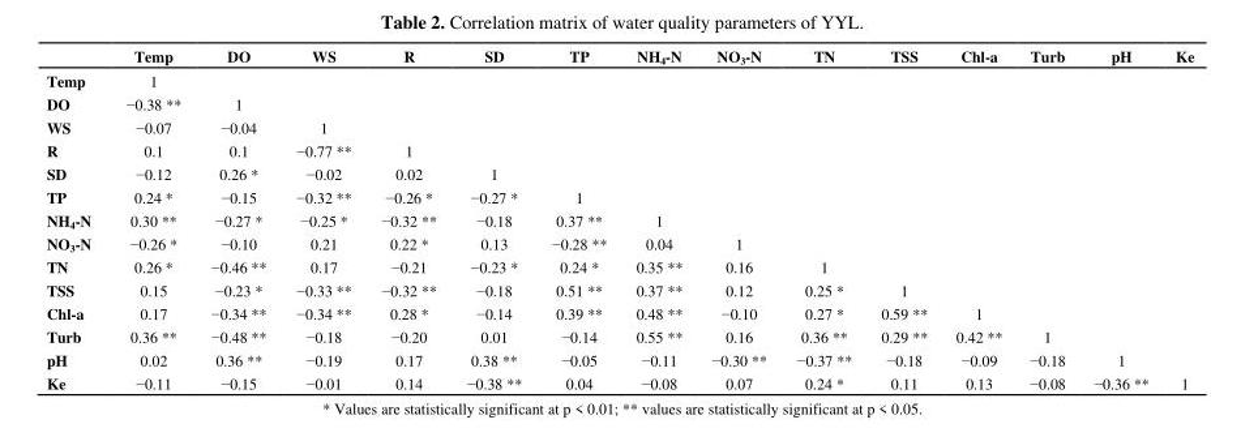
<table><thead><tr><td></td><td>Temp</td><td>DO</td><td>WS</td><td>R</td><td>SD</td><td>TP</td><td>NH<sub>4</sub>-N</td><td>NO<sub>3</sub>-N</td><td>TN</td><td>TSS</td><td>Chl-a</td><td>Turb</td><td>pH</td><td>Ke</td></tr></thead><tbody><tr><td>Temp</td><td>1</td><td></td><td></td><td></td><td></td><td></td><td></td><td></td><td></td><td></td><td></td><td></td><td></td><td></td></tr><tr><td>DO</td><td>−0.38 **</td><td>1</td><td></td><td></td><td></td><td></td><td></td><td></td><td></td><td></td><td></td><td></td><td></td><td></td></tr><tr><td>WS</td><td>−0.07</td><td>−0.04</td><td>1</td><td></td><td></td><td></td><td></td><td></td><td></td><td></td><td></td><td></td><td></td><td></td></tr><tr><td>R</td><td>0.1</td><td>0.1</td><td>−0.77 **</td><td>1</td><td></td><td></td><td></td><td></td><td></td><td></td><td></td><td></td><td></td><td></td></tr><tr><td>SD</td><td>−0.12</td><td>0.26 *</td><td>−0.02</td><td>0.02</td><td>1</td><td></td><td></td><td></td><td></td><td></td><td></td><td></td><td></td><td></td></tr><tr><td>TP</td><td>0.24 *</td><td>−0.15</td><td>−0.32 **</td><td>−0.26 *</td><td>−0.27 *</td><td>1</td><td></td><td></td><td></td><td></td><td></td><td></td><td></td><td></td></tr><tr><td>NH<sub>4</sub>-N</td><td>0.30 **</td><td>−0.27 *</td><td>−0.25 *</td><td>−0.32 **</td><td>−0.18</td><td>0.37 **</td><td>1</td><td></td><td></td><td></td><td></td><td></td><td></td><td></td></tr><tr><td>NO<sub>3</sub>-N</td><td>−0.26 *</td><td>−0.10</td><td>0.21</td><td>0.22 *</td><td>0.13</td><td>−0.28 **</td><td>0.04</td><td>1</td><td></td><td></td><td></td><td></td><td></td><td></td></tr><tr><td>TN</td><td>0.26 *</td><td>−0.46 **</td><td>0.17</td><td>−0.21</td><td>−0.23 *</td><td>0.24 *</td><td>0.35 **</td><td>0.16</td><td>1</td><td></td><td></td><td></td><td></td><td></td></tr><tr><td>TSS</td><td>0.15</td><td>−0.23 *</td><td>−0.33 **</td><td>−0.32 **</td><td>−0.18</td><td>0.51 **</td><td>0.37 **</td><td>0.12</td><td>0.25 *</td><td>1</td><td></td><td></td><td></td><td></td></tr><tr><td>Chl-a</td><td>0.17</td><td>−0.34 **</td><td>−0.34 **</td><td>0.28 *</td><td>−0.14</td><td>0.39 **</td><td>0.48 **</td><td>−0.10</td><td>0.27 *</td><td>0.59 **</td><td>1</td><td></td><td></td><td></td></tr><tr><td>Turb</td><td>0.36 **</td><td>−0.48 **</td><td>−0.18</td><td>−0.20</td><td>0.01</td><td>−0.14</td><td>0.55 **</td><td>0.16</td><td>0.36 **</td><td>0.29 **</td><td>0.42 **</td><td>1</td><td></td><td></td></tr><tr><td>pH</td><td>0.02</td><td>0.36 **</td><td>−0.19</td><td>0.17</td><td>0.38 **</td><td>−0.05</td><td>−0.11</td><td>−0.30 **</td><td>−0.37 **</td><td>−0.18</td><td>−0.09</td><td>−0.18</td><td>1</td><td></td></tr><tr><td>Ke</td><td>−0.11</td><td>−0.15</td><td>−0.01</td><td>0.14</td><td>−0.38 **</td><td>0.04</td><td>−0.08</td><td>0.07</td><td>0.24 *</td><td>0.11</td><td>0.13</td><td>−0.08</td><td>−0.36 **</td><td>1</td></tr></tbody></table>